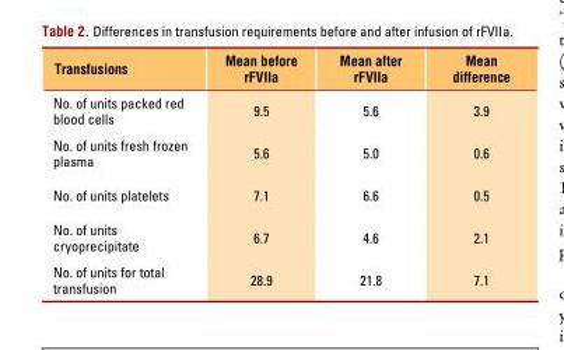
<table><thead><tr><td>Transfusions</td><td>Mean before rFVIIa</td><td>Mean after rFVIIa</td><td>Mean difference</td></tr></thead><tbody><tr><td>No. of units packed red blood cells</td><td>9.5</td><td>5.6</td><td>3.9</td></tr><tr><td>No. of units fresh frozen plasma</td><td>5.6</td><td>5.0</td><td>0.6</td></tr><tr><td>No. of units platelets</td><td>7.1</td><td>6.6</td><td>0.5</td></tr><tr><td>No. of units cryoprecipitate</td><td>6.7</td><td>4.6</td><td>2.1</td></tr><tr><td>No. of units for total transfusion</td><td>28.9</td><td>21.8</td><td>7.1</td></tr></tbody></table>